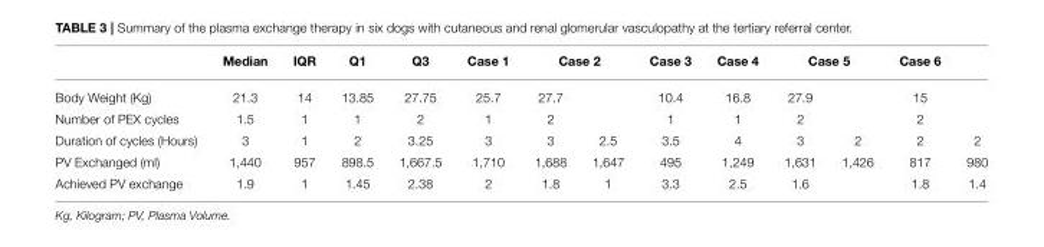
<table><thead><tr><td rowspan="2">Body Weight (Kg)</td><td rowspan="2">Median 21.3</td><td rowspan="2">IQR 14</td><td rowspan="2">Q1 13.85</td><td rowspan="2">Q3 27.75</td><td rowspan="2">Case 1 25.7</td><td colspan="2">Case 2</td><td rowspan="2">Case 3 10.4</td><td rowspan="2">Case 4 16.8</td><td colspan="2">Case 5</td><td rowspan="2">Case 6 15</td><td rowspan="2"></td></tr><tr><td>27.7</td><td></td><td>27.9</td><td></td></tr></thead><tbody><tr><td>Number of PEX cycles</td><td>1.5</td><td>1</td><td>1</td><td>2</td><td>1</td><td>2</td><td></td><td>1</td><td>1</td><td>2</td><td></td><td>2</td><td></td></tr><tr><td>Duration of cycles (Hours)</td><td>3</td><td>1</td><td>2</td><td>3.25</td><td>3</td><td>3</td><td>2.5</td><td>3.5</td><td>4</td><td>3</td><td>2</td><td>2</td><td>2</td></tr><tr><td>PV Exchanged (ml)</td><td>1,440</td><td>957</td><td>898.5</td><td>1,667.5</td><td>1,710</td><td>1,688</td><td>1,647</td><td>495</td><td>1,249</td><td>1,631</td><td>1,426</td><td>817</td><td>980</td></tr><tr><td>Achieved PV exchange</td><td>1.9</td><td>1</td><td>1.45</td><td>2.38</td><td>2</td><td>1.8</td><td>1</td><td>3.3</td><td>2.5</td><td>1.6</td><td></td><td>1.8</td><td>1.4</td></tr></tbody></table>